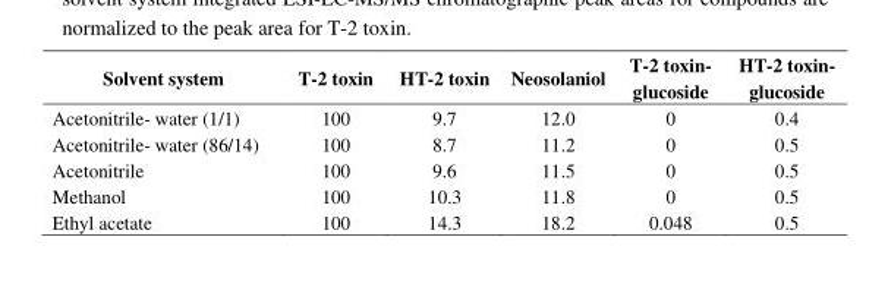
<table><thead><tr><td>Solvent system</td><td>T-2 toxin</td><td>HT-2 toxin</td><td>Neosolaniol</td><td>T-2 toxin- glucoside</td><td>HT-2 toxin- glucoside</td></tr></thead><tbody><tr><td>Acetonitrile- water (1/1)</td><td>100</td><td>9.7</td><td>12.0</td><td>0</td><td>0.4</td></tr><tr><td>Acetonitrile- water (86/14)</td><td>100</td><td>8.7</td><td>11.2</td><td>0</td><td>0.5</td></tr><tr><td>Acetonitrile</td><td>100</td><td>9.6</td><td>11.5</td><td>0</td><td>0.5</td></tr><tr><td>Methanol</td><td>100</td><td>10.3</td><td>11.8</td><td>0</td><td>0.5</td></tr><tr><td>Ethyl acetate</td><td>100</td><td>14.3</td><td>18.2</td><td>0.048</td><td>0.5</td></tr></tbody></table>